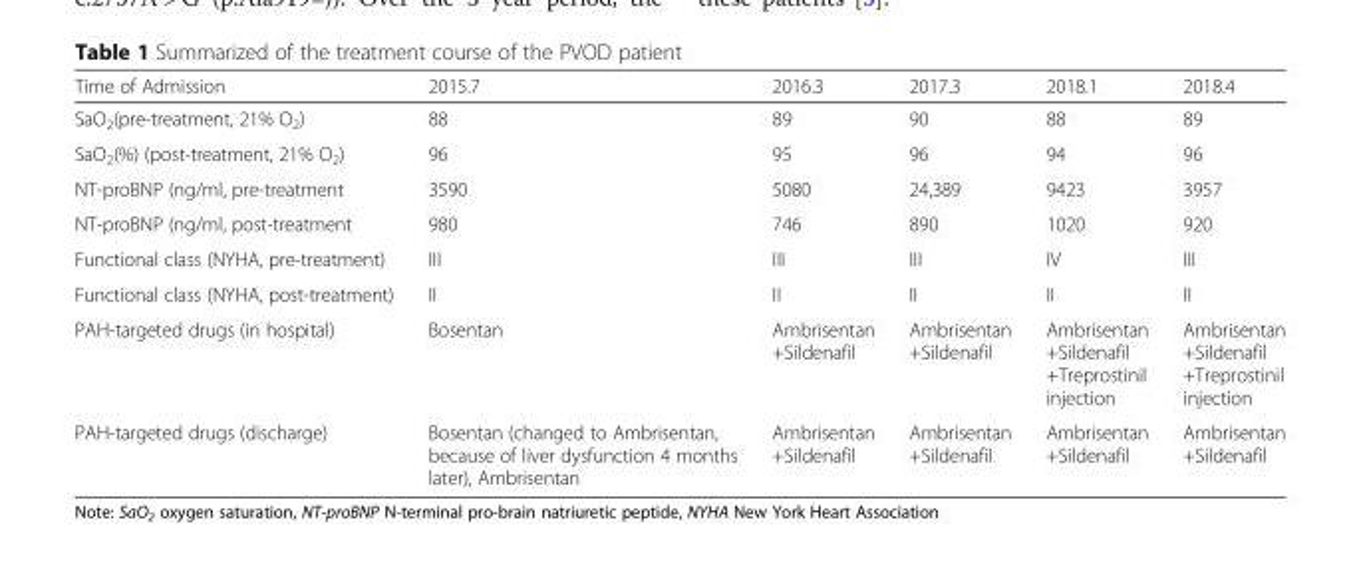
<table><thead><tr><td>Time of Admission</td><td>2015.7</td><td>2016.3</td><td>2017.3</td><td>2018.1</td><td>2018.4</td></tr></thead><tbody><tr><td>SaO<sub>2</sub>(pre-treatment, 21% O<sub>2</sub>)</td><td>88</td><td>89</td><td>90</td><td>88</td><td>89</td></tr><tr><td>SaO<sub>2</sub>(%) (post-treatment, 21% O<sub>2</sub>)</td><td>96</td><td>95</td><td>96</td><td>94</td><td>96</td></tr><tr><td>NT-proBNP (ng/ml, pre-treatment</td><td>3590</td><td>5080</td><td>24,389</td><td>9423</td><td>3957</td></tr><tr><td>NT-proBNP (ng/ml, post-treatment</td><td>980</td><td>746</td><td>890</td><td>1020</td><td>920</td></tr><tr><td>Functional class (NYHA, pre-treatment)</td><td>III</td><td>III</td><td>III</td><td>IV</td><td>III</td></tr><tr><td>Functional class (NYHA, post-treatment)</td><td>II</td><td>II</td><td>II</td><td>II</td><td>II</td></tr><tr><td>PAH-targeted drugs (in hospital)</td><td>Bosentan</td><td>Ambrisentan +Sildenafil</td><td>Ambrisentan +Sildenafil</td><td>Ambrisentan +Sildenafil +Treprostinil injection</td><td>Ambrisentan +Sildenafil +Treprostinil injection</td></tr><tr><td>PAH-targeted drugs (discharge)</td><td>Bosentan (changed to Ambrisentan, because of liver dysfunction 4 months later), Ambrisentan</td><td>Ambrisentan +Sildenafil</td><td>Ambrisentan +Sildenafil</td><td>Ambrisentan +Sildenafil</td><td>Ambrisentan +Sildenafil</td></tr></tbody></table>